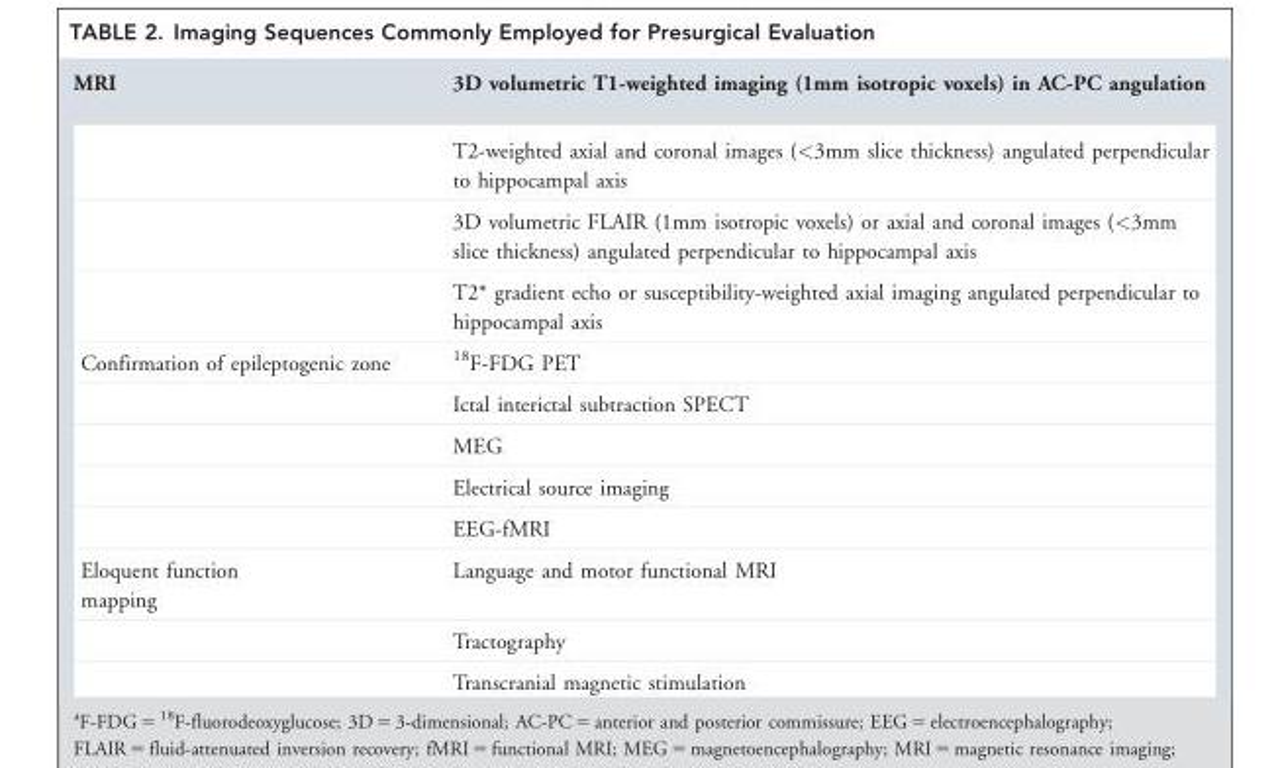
<table><thead><tr><td>MRI</td><td>3D volumetric T1-weighted imaging (1mm isotropic voxels) in AC-PC angulation</td></tr></thead><tbody><tr><td></td><td>T2-weighted axial and coronal images (&lt;3mm slice thickness) angulated perpendicular to hippocampal axis</td></tr><tr><td></td><td>3D volumetric FLAIR (1mm isotropic voxels) or axial and coronal images (&lt;3mm slice thickness) angulated perpendicular to hippocampal axis</td></tr><tr><td></td><td>T2* gradient echo or susceptibility-weighted axial imaging angulated perpendicular to hippocampal axis</td></tr><tr><td rowspan="5">Confirmation of epileptogenic zone</td><td><sup>18</sup>F-FDG PET</td></tr><tr><td>Ictal interictal subtraction SPECT</td></tr><tr><td>MEG</td></tr><tr><td>Electrical source imaging</td></tr><tr><td>EEG-fMRI</td></tr><tr><td rowspan="3">Eloquent function mapping</td><td>Language and motor functional MRI</td></tr><tr><td>Tractography</td></tr><tr><td>Transcranial magnetic stimulation</td></tr></tbody></table>